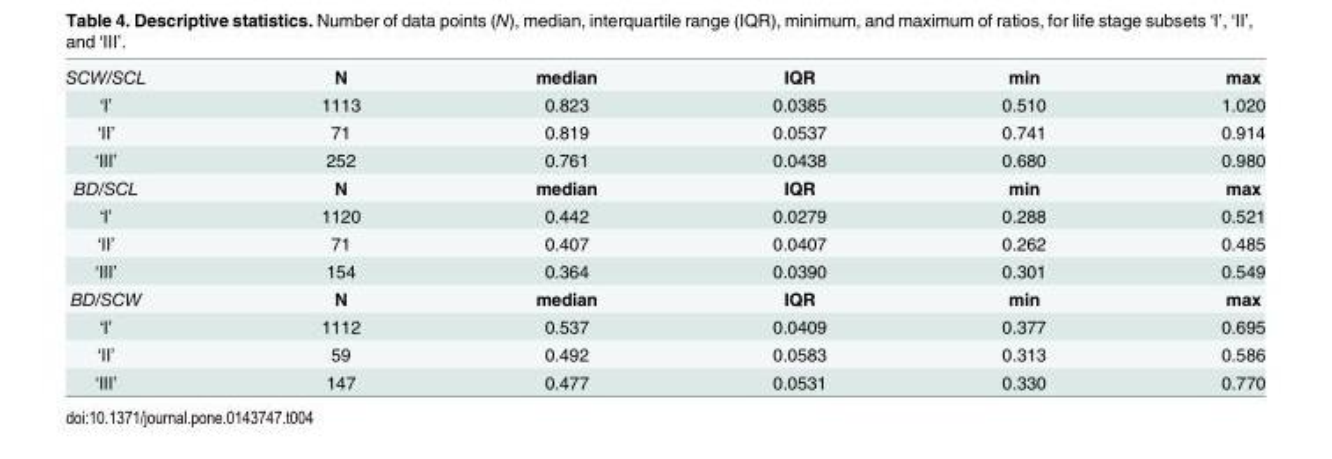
<table><tbody><tr><td>SCW/SCL</td><td>N</td><td>median</td><td>IQR</td><td>min</td><td>max</td></tr><tr><td>‘I’</td><td>1113</td><td>0.823</td><td>0.0385</td><td>0.510</td><td>1.020</td></tr><tr><td>‘II’</td><td>71</td><td>0.819</td><td>0.0537</td><td>0.741</td><td>0.914</td></tr><tr><td>‘III’</td><td>252</td><td>0.761</td><td>0.0438</td><td>0.680</td><td>0.980</td></tr><tr><td>BD/SCL</td><td>N</td><td>median</td><td>IQR</td><td>min</td><td>max</td></tr><tr><td>‘I’</td><td>1120</td><td>0.442</td><td>0.0279</td><td>0.288</td><td>0.521</td></tr><tr><td>‘II’</td><td>71</td><td>0.407</td><td>0.0407</td><td>0.262</td><td>0.485</td></tr><tr><td>‘III’</td><td>154</td><td>0.364</td><td>0.0390</td><td>0.301</td><td>0.549</td></tr><tr><td>BD/SCW</td><td>N</td><td>median</td><td>IQR</td><td>min</td><td>max</td></tr><tr><td>‘I’</td><td>1112</td><td>0.537</td><td>0.0409</td><td>0.377</td><td>0.695</td></tr><tr><td>‘II’</td><td>59</td><td>0.492</td><td>0.0583</td><td>0.313</td><td>0.586</td></tr><tr><td>‘III’</td><td>147</td><td>0.477</td><td>0.0531</td><td>0.330</td><td>0.770</td></tr></tbody></table>